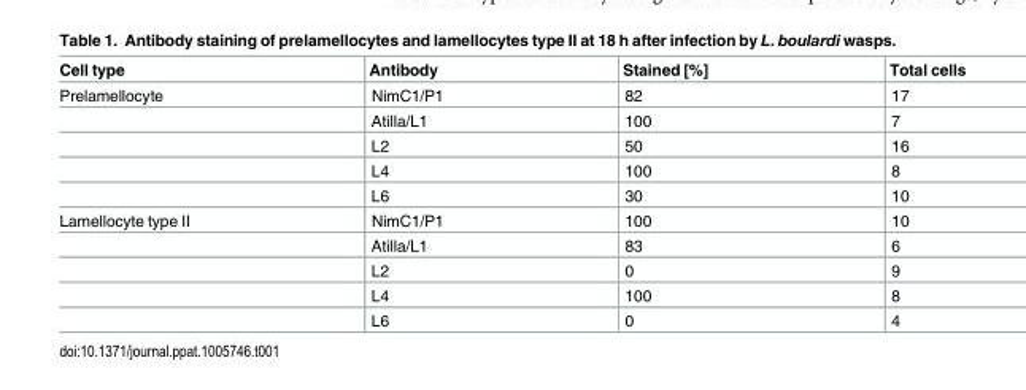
<table><thead><tr><td>Cell type</td><td>Antibody</td><td>Stained [%]</td><td>Total cells</td></tr></thead><tbody><tr><td rowspan="5">Prelamellocyte</td><td>NimC1/P1</td><td>82</td><td>17</td></tr><tr><td>Atilla/L1</td><td>100</td><td>7</td></tr><tr><td>L2</td><td>50</td><td>16</td></tr><tr><td>L4</td><td>100</td><td>8</td></tr><tr><td>L6</td><td>30</td><td>10</td></tr><tr><td rowspan="5">Lamellocyte type II</td><td>NimC1/P1</td><td>100</td><td>10</td></tr><tr><td>Atilla/L1</td><td>83</td><td>6</td></tr><tr><td>L2</td><td>0</td><td>9</td></tr><tr><td>L4</td><td>100</td><td>8</td></tr><tr><td>L6</td><td>0</td><td>4</td></tr></tbody></table>